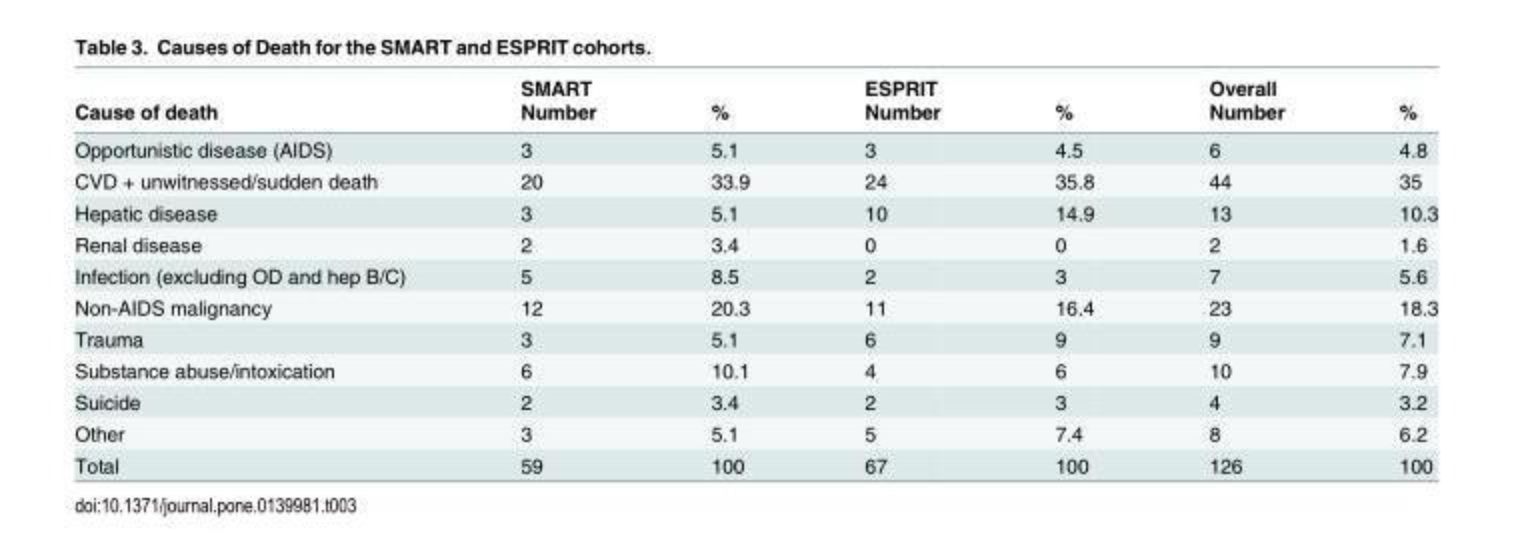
<table><thead><tr><td rowspan="2">Cause of death</td><td rowspan="2">SMART Number</td><td rowspan="2">%</td><td rowspan="2">ESPRIT Number</td><td rowspan="2">%</td><td rowspan="2">Overall Number</td><td rowspan="2">%</td></tr><tr></tr></thead><tbody><tr><td>Opportunistic disease (AIDS)</td><td>3</td><td>5.1</td><td>3</td><td>4.5</td><td>6</td><td>4.8</td></tr><tr><td>CVD + unwitnessed/sudden death</td><td>20</td><td>33.9</td><td>24</td><td>35.8</td><td>44</td><td>35</td></tr><tr><td>Hepatic disease</td><td>3</td><td>5.1</td><td>10</td><td>14.9</td><td>13</td><td>10.3</td></tr><tr><td>Renal disease</td><td>2</td><td>3.4</td><td>0</td><td>0</td><td>2</td><td>1.6</td></tr><tr><td>Infection (excluding OD and hep B/C)</td><td>5</td><td>8.5</td><td>2</td><td>3</td><td>7</td><td>5.6</td></tr><tr><td>Non-AIDS malignancy</td><td>12</td><td>20.3</td><td>11</td><td>16.4</td><td>23</td><td>18.3</td></tr><tr><td>Trauma</td><td>3</td><td>5.1</td><td>6</td><td>9</td><td>9</td><td>7.1</td></tr><tr><td>Substance abuse/intoxication</td><td>6</td><td>10.1</td><td>4</td><td>6</td><td>10</td><td>7.9</td></tr><tr><td>Suicide</td><td>2</td><td>3.4</td><td>2</td><td>3</td><td>4</td><td>3.2</td></tr><tr><td>Other</td><td>3</td><td>5.1</td><td>5</td><td>7.4</td><td>8</td><td>6.2</td></tr><tr><td>Total</td><td>59</td><td>100</td><td>67</td><td>100</td><td>126</td><td>100</td></tr></tbody></table>